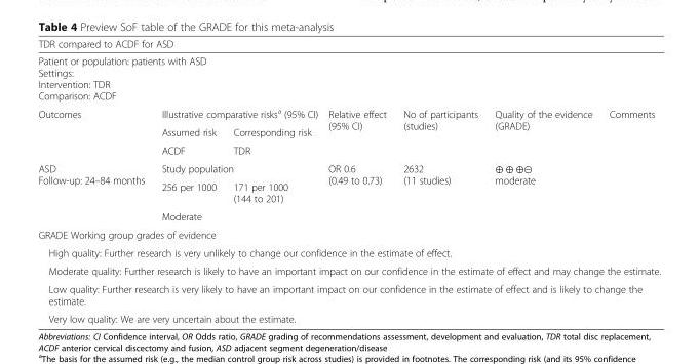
<table><thead><tr><td rowspan="2" colspan="7">TDR compared to ACDF for ASD Patient or population: patients with ASD Settings: Intervention: TDR Comparison: ACDF</td></tr><tr></tr><tr><td rowspan="2">Outcomes</td><td colspan="2">Illustrative comparative risks<sup>a</sup> (95% CI)</td><td rowspan="2">Relative effect (95% CI)</td><td rowspan="2">No of participants (studies)</td><td rowspan="2">Quality of the evidence (GRADE)</td><td rowspan="2">Comments</td></tr><tr><td>Assumed risk</td><td>Corresponding risk</td></tr></thead><tbody><tr><td></td><td>ACDF</td><td>TDR</td><td></td><td></td><td></td><td></td></tr><tr><td rowspan="3">ASD Follow-up: 24–84 months</td><td colspan="2">Study population</td><td rowspan="3">OR 0.6 (0.49 to 0.73)</td><td rowspan="3">2632 (11 studies)</td><td rowspan="3">⊕ ⊕ ⊕⊝ moderate</td><td rowspan="3"></td></tr><tr><td>256 per 1000</td><td>171 per 1000 (144 to 201)</td></tr><tr><td colspan="2">Moderate</td></tr><tr><td colspan="7">GRADE Working group grades of evidence</td></tr><tr><td colspan="7">High quality: Further research is very unlikely to change our confidence in the estimate of effect.</td></tr><tr><td colspan="7">Moderate quality: Further research is likely to have an important impact on our confidence in the estimate of effect and may change the estimate.</td></tr><tr><td colspan="7">Low quality: Further research is very likely to have an important impact on our confidence in the estimate of effect and is likely to change the estimate.</td></tr><tr><td colspan="7">Very low quality: We are very uncertain about the estimate.</td></tr></tbody></table>